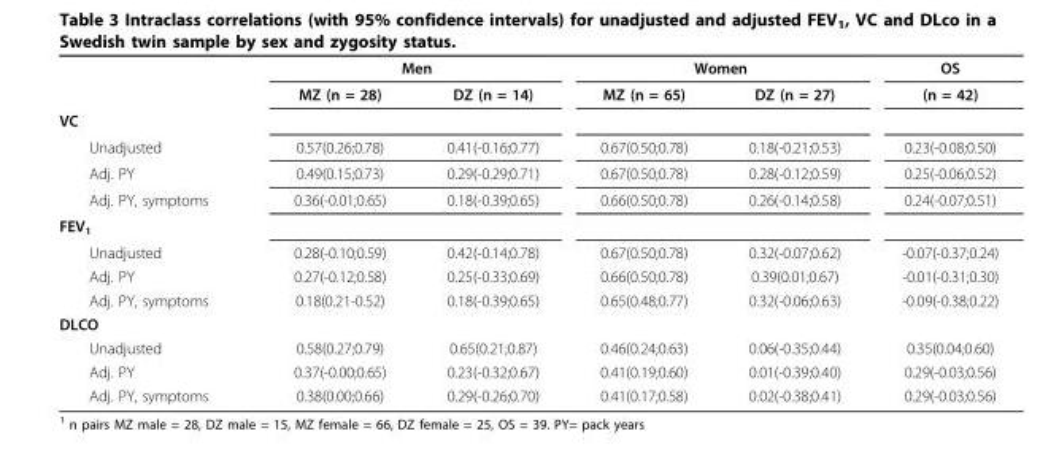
<table><thead><tr><td rowspan="2"></td><td colspan="2">Men</td><td colspan="2">Women</td><td rowspan="2">OS (n = 42)</td></tr><tr><td>MZ (n = 28)</td><td>DZ (n = 14)</td><td>MZ (n = 65)</td><td>DZ (n = 27)</td></tr></thead><tbody><tr><td colspan="6">VC</td></tr><tr><td>Unadjusted</td><td>0.57(0.26;0.78)</td><td>0.41(-0.16;0.77)</td><td>0.67(0.50;0.78)</td><td>0.18(-0.21;0.53)</td><td>0.23(-0.08;0.50)</td></tr><tr><td>Adj. PY</td><td>0.49(0.15;0.73)</td><td>0.29(-0.29;0.71)</td><td>0.67(0.50;0.78)</td><td>0.28(-0.12;0.59)</td><td>0.25(-0.06;0.52)</td></tr><tr><td>Adj. PY, symptoms</td><td>0.36(-0.01;0.65)</td><td>0.18(-0.39;0.65)</td><td>0.66(0.50;0.78)</td><td>0.26(-0.14;0.58)</td><td>0.24(-0.07;0.51)</td></tr><tr><td colspan="6">FEV<sub>1</sub></td></tr><tr><td>Unadjusted</td><td>0.28(-0.10;0.59)</td><td>0.42(-0.14;0.78)</td><td>0.67(0.50;0.78)</td><td>0.32(-0.07;0.62)</td><td>-0.07(-0.37;0.24)</td></tr><tr><td>Adj. PY</td><td>0.27(-0.12;0.58)</td><td>0.25(-0.33;0.69)</td><td>0.66(0.50;0.78)</td><td>0.39(0.01;0.67)</td><td>-0.01(-0.31;0.30)</td></tr><tr><td>Adj. PY, symptoms</td><td>0.18(0.21-0.52)</td><td>0.18(-0.39;0.65)</td><td>0.65(0.48;0.77)</td><td>0.32(-0.06;0.63)</td><td>-0.09(-0.38;0.22)</td></tr><tr><td colspan="6">DLCO</td></tr><tr><td>Unadjusted</td><td>0.58(0.27;0.79)</td><td>0.65(0.21;0.87)</td><td>0.46(0.24;0.63)</td><td>0.06(-0.35;0.44)</td><td>0.35(0.04;0.60)</td></tr><tr><td>Adj. PY</td><td>0.37(-0.00;0.65)</td><td>0.23(-0.32;0.67)</td><td>0.41(0.19;0.60)</td><td>0.01(-0.39;0.40)</td><td>0.29(-0.03;0.56)</td></tr><tr><td>Adj. PY, symptoms</td><td>0.38(0.00;0.66)</td><td>0.29(-0.26;0.70)</td><td>0.41(0.17;0.58)</td><td>0.02(-0.38;0.41)</td><td>0.29(-0.03;0.56)</td></tr></tbody></table>